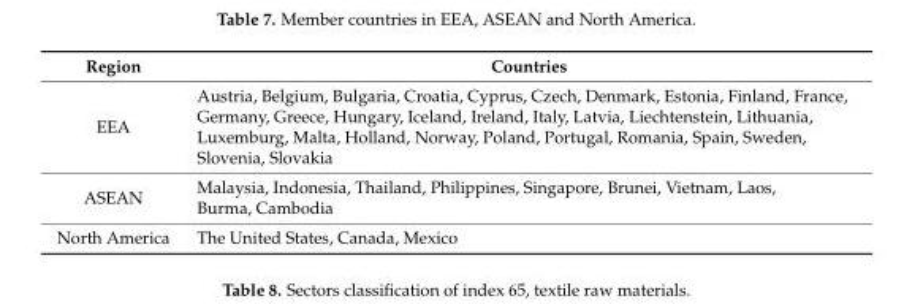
<table><thead><tr><td>Region</td><td>Countries</td></tr></thead><tbody><tr><td>EEA</td><td>Austria, Belgium, Bulgaria, Croatia, Cyprus, Czech, Denmark, Estonia, Finland, France, Germany, Greece, Hungary, Iceland, Ireland, Italy, Latvia, Liechtenstein, Lithuania, Luxemburg, Malta, Holland, Norway, Poland, Portugal, Romania, Spain, Sweden, Slovenia, Slovakia</td></tr><tr><td>ASEAN</td><td>Malaysia, Indonesia, Thailand, Philippines, Singapore, Brunei, Vietnam, Laos, Burma, Cambodia</td></tr><tr><td>North America</td><td>The United States, Canada, Mexico</td></tr></tbody></table>